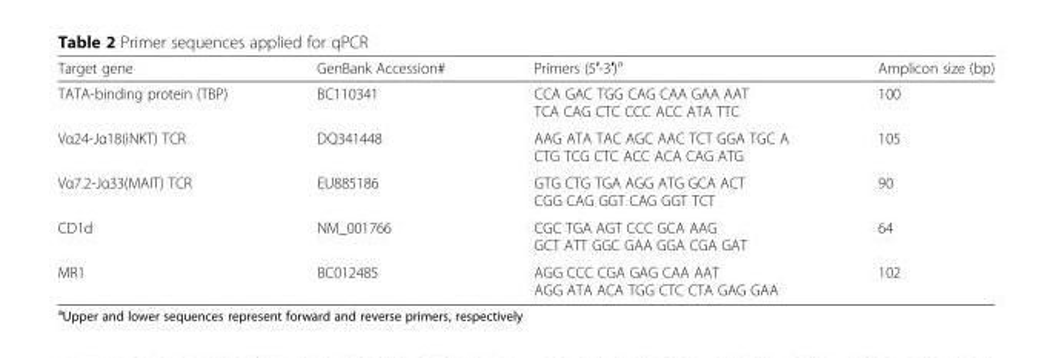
<table><thead><tr><td>Target gene</td><td>GenBank Accession#</td><td>Primers (5′-3′)<sup>a</sup></td><td>Amplicon size (bp)</td></tr></thead><tbody><tr><td>TATA-binding protein (TBP)</td><td>BC110341</td><td>CCA GAC TGG CAG CAA GAA AAT TCA CAG CTC CCC ACC ATA TTC</td><td>100</td></tr><tr><td>Vα24-Jα18(iNKT) TCR</td><td>DQ341448</td><td>AAG ATA TAC AGC AAC TCT GGA TGC A CTG TCG CTC ACC ACA CAG ATG</td><td>105</td></tr><tr><td>Vα7.2-Jα33(MAIT) TCR</td><td>EU885186</td><td>GTG CTG TGA AGG ATG GCA ACT CGG CAG GGT CAG GGT TCT</td><td>90</td></tr><tr><td>CD1d</td><td>NM_001766</td><td>CGC TGA AGT CCC GCA AAG GCT ATT GGC GAA GGA CGA GAT</td><td>64</td></tr><tr><td>MR1</td><td>BC012485</td><td>AGG CCC CGA GAG CAA AAT AGG ATA ACA TGG CTC CTA GAG GAA</td><td>102</td></tr></tbody></table>